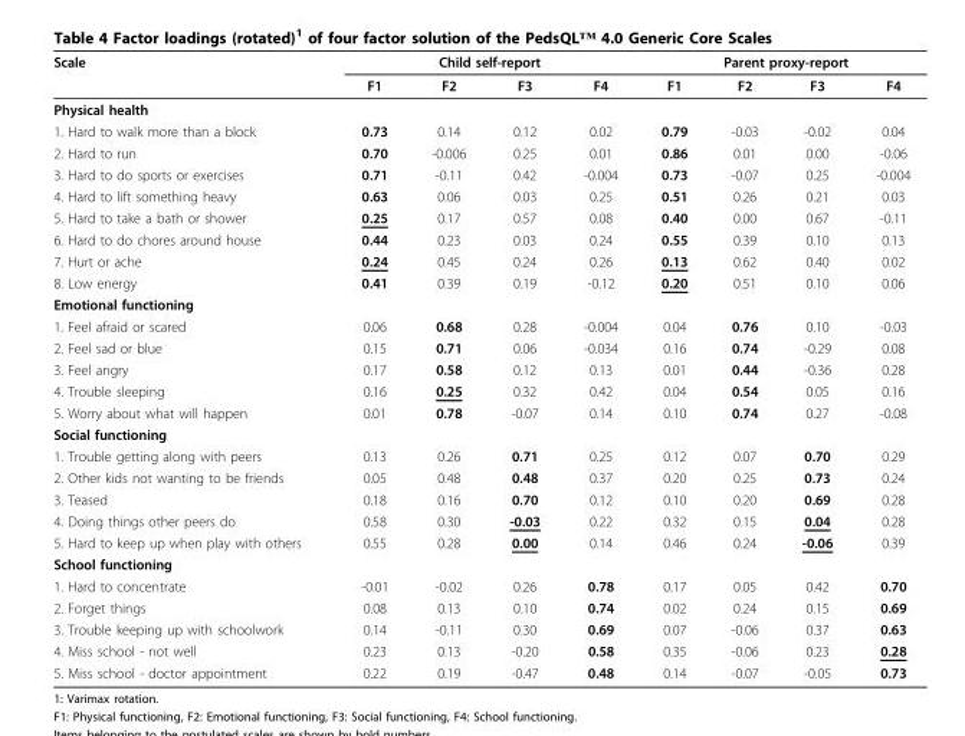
<table><thead><tr><td rowspan="2">Scale</td><td colspan="4">Child self-report</td><td colspan="4">Parent proxy-report</td></tr><tr><td>F1</td><td>F2</td><td>F3</td><td>F4</td><td>F1</td><td>F2</td><td>F3</td><td>F4</td></tr></thead><tbody><tr><td colspan="9">Physical health</td></tr><tr><td>1. Hard to walk more than a block</td><td>0.73</td><td>0.14</td><td>0.12</td><td>0.02</td><td>0.79</td><td>-0.03</td><td>-0.02</td><td>0.04</td></tr><tr><td>2. Hard to run</td><td>0.70</td><td>-0.006</td><td>0.25</td><td>0.01</td><td>0.86</td><td>0.01</td><td>0.00</td><td>-0.06</td></tr><tr><td>3. Hard to do sports or exercises</td><td>0.71</td><td>-0.11</td><td>0.42</td><td>-0.004</td><td>0.73</td><td>-0.07</td><td>0.25</td><td>-0.004</td></tr><tr><td>4. Hard to lift something heavy</td><td>0.63</td><td>0.06</td><td>0.03</td><td>0.25</td><td>0.51</td><td>0.26</td><td>0.21</td><td>0.03</td></tr><tr><td>5. Hard to take a bath or shower</td><td>0.25</td><td>0.17</td><td>0.57</td><td>0.08</td><td>0.40</td><td>0.00</td><td>0.67</td><td>-0.11</td></tr><tr><td>6. Hard to do chores around house</td><td>0.44</td><td>0.23</td><td>0.03</td><td>0.24</td><td>0.55</td><td>0.39</td><td>0.10</td><td>0.13</td></tr><tr><td>7. Hurt or ache</td><td>0.24</td><td>0.45</td><td>0.24</td><td>0.26</td><td>0.13</td><td>0.62</td><td>0.40</td><td>0.02</td></tr><tr><td>8. Low energy</td><td>0.41</td><td>0.39</td><td>0.19</td><td>-0.12</td><td>0.20</td><td>0.51</td><td>0.10</td><td>0.06</td></tr><tr><td colspan="9">Emotional functioning</td></tr><tr><td>1. Feel afraid or scared</td><td>0.06</td><td>0.68</td><td>0.28</td><td>-0.004</td><td>0.04</td><td>0.76</td><td>0.10</td><td>-0.03</td></tr><tr><td>2. Feel sad or blue</td><td>0.15</td><td>0.71</td><td>0.06</td><td>-0.034</td><td>0.16</td><td>0.74</td><td>-0.29</td><td>0.08</td></tr><tr><td>3. Feel angry</td><td>0.17</td><td>0.58</td><td>0.12</td><td>0.13</td><td>0.01</td><td>0.44</td><td>-0.36</td><td>0.28</td></tr><tr><td>4. Trouble sleeping</td><td>0.16</td><td>0.25</td><td>0.32</td><td>0.42</td><td>0.04</td><td>0.54</td><td>0.05</td><td>0.16</td></tr><tr><td>5. Worry about what will happen</td><td>0.01</td><td>0.78</td><td>-0.07</td><td>0.14</td><td>0.10</td><td>0.74</td><td>0.27</td><td>-0.08</td></tr><tr><td colspan="9">Social functioning</td></tr><tr><td>1. Trouble getting along with peers</td><td>0.13</td><td>0.26</td><td>0.71</td><td>0.25</td><td>0.12</td><td>0.07</td><td>0.70</td><td>0.29</td></tr><tr><td>2. Other kids not wanting to be friends</td><td>0.05</td><td>0.48</td><td>0.48</td><td>0.37</td><td>0.20</td><td>0.25</td><td>0.73</td><td>0.24</td></tr><tr><td>3. Teased</td><td>0.18</td><td>0.16</td><td>0.70</td><td>0.12</td><td>0.10</td><td>0.20</td><td>0.69</td><td>0.28</td></tr><tr><td>4. Doing things other peers do</td><td>0.58</td><td>0.30</td><td>-0.03</td><td>0.22</td><td>0.32</td><td>0.15</td><td>0.04</td><td>0.28</td></tr><tr><td>5. Hard to keep up when play with others</td><td>0.55</td><td>0.28</td><td>0.00</td><td>0.14</td><td>0.46</td><td>0.24</td><td>-0.06</td><td>0.39</td></tr><tr><td colspan="9">School functioning</td></tr><tr><td>1. Hard to concentrate</td><td>-0.01</td><td>-0.02</td><td>0.26</td><td>0.78</td><td>0.17</td><td>0.05</td><td>0.42</td><td>0.70</td></tr><tr><td>2. Forget things</td><td>0.08</td><td>0.13</td><td>0.10</td><td>0.74</td><td>0.02</td><td>0.24</td><td>0.15</td><td>0.69</td></tr><tr><td>3. Trouble keeping up with schoolwork</td><td>0.14</td><td>-0.11</td><td>0.30</td><td>0.69</td><td>0.07</td><td>-0.06</td><td>0.37</td><td>0.63</td></tr><tr><td>4. Miss school - not well</td><td>0.23</td><td>0.13</td><td>-0.20</td><td>0.58</td><td>0.35</td><td>-0.06</td><td>0.23</td><td>0.28</td></tr><tr><td>5. Miss school - doctor appointment</td><td>0.22</td><td>0.19</td><td>-0.47</td><td>0.48</td><td>0.14</td><td>-0.07</td><td>-0.05</td><td>0.73</td></tr></tbody></table>